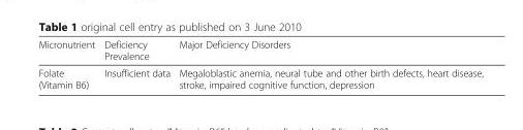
<table><thead><tr><td>Micronutrient</td><td>Deficiency Prevalence</td><td>Major Deficiency Disorders</td></tr></thead><tbody><tr><td>Folate (Vitamin B6)</td><td>Insufficient data</td><td>Megaloblastic anemia, neural tube and other birth defects, heart disease, stroke, impaired cognitive function, depression</td></tr></tbody></table>